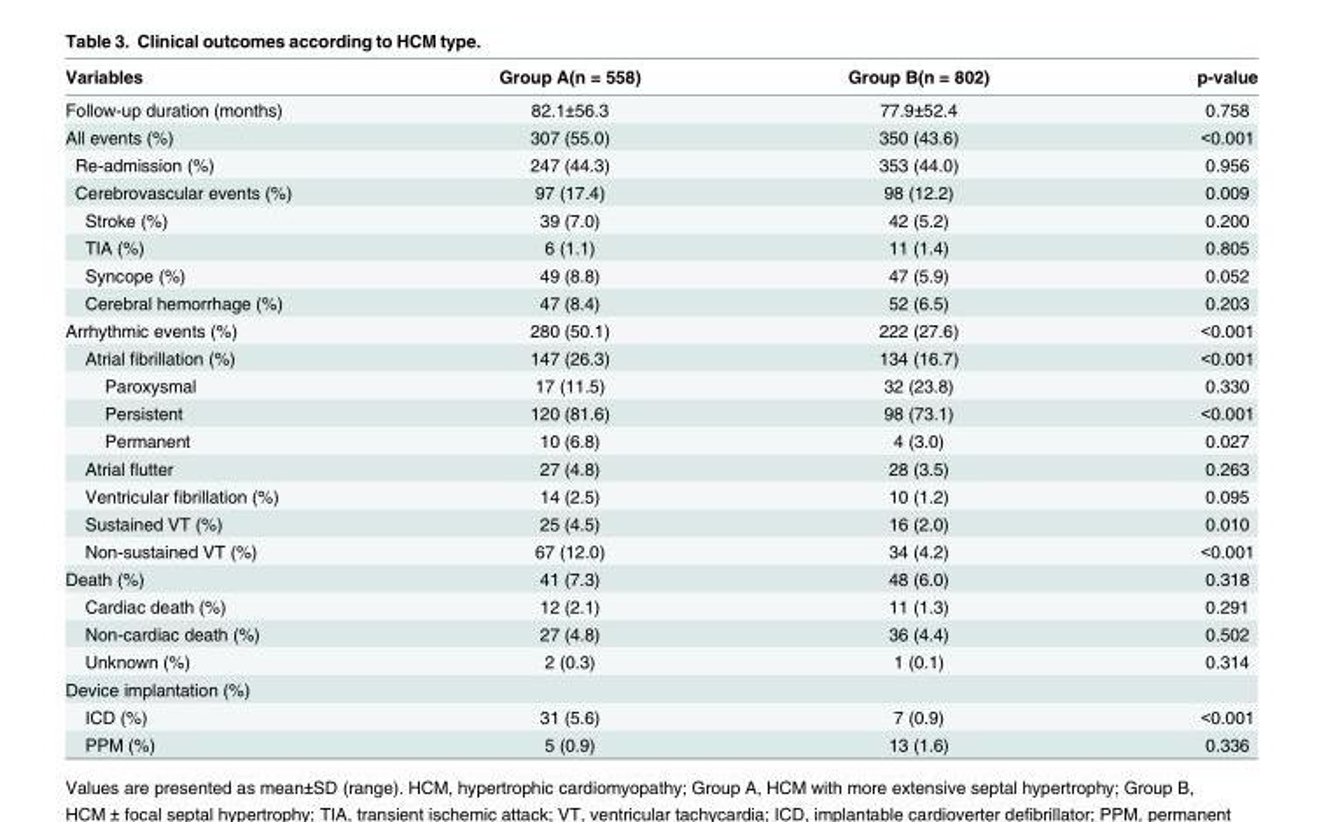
<table><thead><tr><td>Variables</td><td>Group A(n = 558)</td><td>Group B(n = 802)</td><td>p-value</td></tr></thead><tbody><tr><td>Follow-up duration (months)</td><td>82.1±56.3</td><td>77.9±52.4</td><td>0.758</td></tr><tr><td>All events (%)</td><td>307 (55.0)</td><td>350 (43.6)</td><td>&lt;0.001</td></tr><tr><td>Re-admission (%)</td><td>247 (44.3)</td><td>353 (44.0)</td><td>0.956</td></tr><tr><td>Cerebrovascular events (%)</td><td>97 (17.4)</td><td>98 (12.2)</td><td>0.009</td></tr><tr><td>Stroke (%)</td><td>39 (7.0)</td><td>42 (5.2)</td><td>0.200</td></tr><tr><td>TIA (%)</td><td>6 (1.1)</td><td>11 (1.4)</td><td>0.805</td></tr><tr><td>Syncope (%)</td><td>49 (8.8)</td><td>47 (5.9)</td><td>0.052</td></tr><tr><td>Cerebral hemorrhage (%)</td><td>47 (8.4)</td><td>52 (6.5)</td><td>0.203</td></tr><tr><td>Arrhythmic events (%)</td><td>280 (50.1)</td><td>222 (27.6)</td><td>&lt;0.001</td></tr><tr><td>Atrial fibrillation (%)</td><td>147 (26.3)</td><td>134 (16.7)</td><td>&lt;0.001</td></tr><tr><td>Paroxysmal</td><td>17 (11.5)</td><td>32 (23.8)</td><td>0.330</td></tr><tr><td>Persistent</td><td>120 (81.6)</td><td>98 (73.1)</td><td>&lt;0.001</td></tr><tr><td>Permanent</td><td>10 (6.8)</td><td>4 (3.0)</td><td>0.027</td></tr><tr><td>Atrial flutter</td><td>27 (4.8)</td><td>28 (3.5)</td><td>0.263</td></tr><tr><td>Ventricular fibrillation (%)</td><td>14 (2.5)</td><td>10 (1.2)</td><td>0.095</td></tr><tr><td>Sustained VT (%)</td><td>25 (4.5)</td><td>16 (2.0)</td><td>0.010</td></tr><tr><td>Non-sustained VT (%)</td><td>67 (12.0)</td><td>34 (4.2)</td><td>&lt;0.001</td></tr><tr><td>Death (%)</td><td>41 (7.3)</td><td>48 (6.0)</td><td>0.318</td></tr><tr><td>Cardiac death (%)</td><td>12 (2.1)</td><td>11 (1.3)</td><td>0.291</td></tr><tr><td>Non-cardiac death (%)</td><td>27 (4.8)</td><td>36 (4.4)</td><td>0.502</td></tr><tr><td>Unknown (%)</td><td>2 (0.3)</td><td>1 (0.1)</td><td>0.314</td></tr><tr><td colspan="4">Device implantation (%)</td></tr><tr><td>ICD (%)</td><td>31 (5.6)</td><td>7 (0.9)</td><td>&lt;0.001</td></tr><tr><td>PPM (%)</td><td>5 (0.9)</td><td>13 (1.6)</td><td>0.336</td></tr></tbody></table>